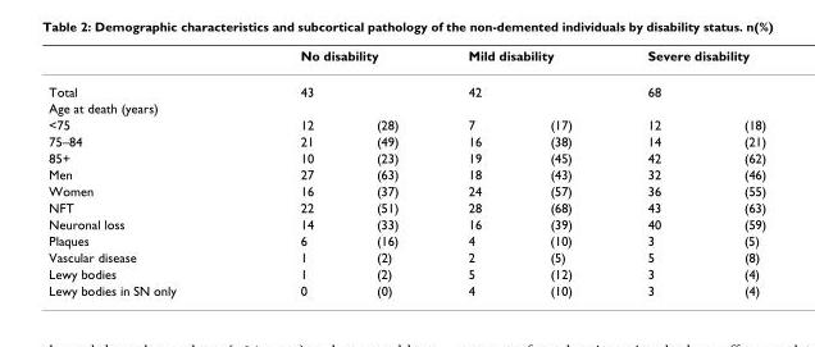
<table><thead><tr><td rowspan="2">Total</td><td colspan="2">No disability</td><td colspan="2">Mild disability</td><td colspan="2">Severe disability</td></tr><tr><td>43</td><td></td><td>42</td><td></td><td>68</td><td></td></tr></thead><tbody><tr><td colspan="7">Age at death (years)</td></tr><tr><td>&lt;75</td><td>12</td><td>(28)</td><td>7</td><td>(17)</td><td>12</td><td>(18)</td></tr><tr><td>75–84</td><td>21</td><td>(49)</td><td>16</td><td>(38)</td><td>14</td><td>(21)</td></tr><tr><td>85+</td><td>10</td><td>(23)</td><td>19</td><td>(45)</td><td>42</td><td>(62)</td></tr><tr><td>Men</td><td>27</td><td>(63)</td><td>18</td><td>(43)</td><td>32</td><td>(46)</td></tr><tr><td>Women</td><td>16</td><td>(37)</td><td>24</td><td>(57)</td><td>36</td><td>(55)</td></tr><tr><td>NFT</td><td>22</td><td>(51)</td><td>28</td><td>(68)</td><td>43</td><td>(63)</td></tr><tr><td>Neuronal loss</td><td>14</td><td>(33)</td><td>16</td><td>(39)</td><td>40</td><td>(59)</td></tr><tr><td>Plaques</td><td>6</td><td>(16)</td><td>4</td><td>(10)</td><td>3</td><td>(5)</td></tr><tr><td>Vascular disease</td><td>1</td><td>(2)</td><td>2</td><td>(5)</td><td>5</td><td>(8)</td></tr><tr><td>Lewy bodies</td><td>1</td><td>(2)</td><td>5</td><td>(12)</td><td>3</td><td>(4)</td></tr><tr><td>Lewy bodies in SN only</td><td>0</td><td>(0)</td><td>4</td><td>(10)</td><td>3</td><td>(4)</td></tr></tbody></table>